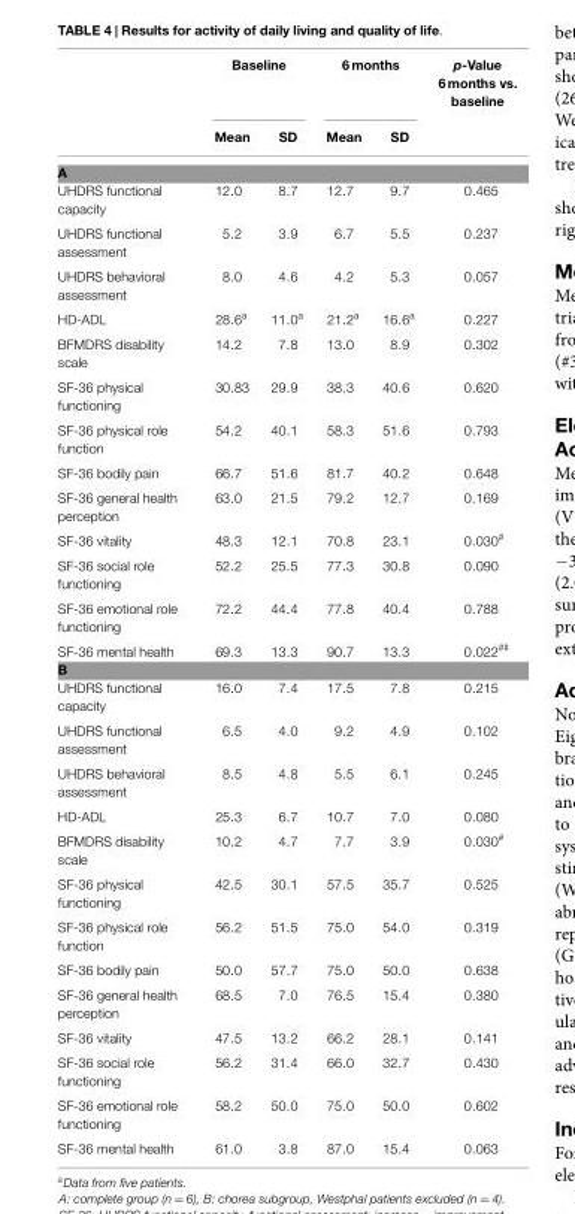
<table><thead><tr><td rowspan="2"></td><td colspan="2">Baseline</td><td colspan="2">6 months</td><td rowspan="2">p-Value 6 months vs. baseline</td></tr><tr><td>Mean</td><td>SD</td><td>Mean</td><td>SD</td></tr></thead><tbody><tr><td colspan="6">A</td></tr><tr><td>UHDRS functional capacity</td><td>12.0</td><td>8.7</td><td>12.7</td><td>9.7</td><td>0.465</td></tr><tr><td>UHDRS functional assessment</td><td>5.2</td><td>3.9</td><td>6.7</td><td>5.5</td><td>0.237</td></tr><tr><td>UHDRS behavioral assessment</td><td>8.0</td><td>4.6</td><td>4.2</td><td>5.3</td><td>0.057</td></tr><tr><td>HD-ADL</td><td>28.6<sup>a</sup></td><td>11.0<sup>a</sup></td><td>21.2<sup>a</sup></td><td>16.6<sup>a</sup></td><td>0.227</td></tr><tr><td>BFMDRS disability scale</td><td>14.2</td><td>7.8</td><td>13.0</td><td>8.9</td><td>0.302</td></tr><tr><td>SF-36 physical functioning</td><td>30.83</td><td>29.9</td><td>38.3</td><td>40.6</td><td>0.620</td></tr><tr><td>SF-36 physical role function</td><td>54.2</td><td>40.1</td><td>58.3</td><td>51.6</td><td>0.793</td></tr><tr><td>SF-36 bodily pain</td><td>66.7</td><td>51.6</td><td>81.7</td><td>40.2</td><td>0.648</td></tr><tr><td>SF-36 general health perception</td><td>63.0</td><td>21.5</td><td>79.2</td><td>12.7</td><td>0.169</td></tr><tr><td>SF-36 vitality</td><td>48.3</td><td>12.1</td><td>70.8</td><td>23.1</td><td>0.030<sup>#</sup></td></tr><tr><td>SF-36 social role functioning</td><td>52.2</td><td>25.5</td><td>77.3</td><td>30.8</td><td>0.090</td></tr><tr><td>SF-36 emotional role functioning</td><td>72.2</td><td>44.4</td><td>77.8</td><td>40.4</td><td>0.788</td></tr><tr><td>SF-36 mental health</td><td>69.3</td><td>13.3</td><td>90.7</td><td>13.3</td><td>0.022<sup>##</sup></td></tr><tr><td colspan="6">B</td></tr><tr><td>UHDRS functional capacity</td><td>16.0</td><td>7.4</td><td>17.5</td><td>7.8</td><td>0.215</td></tr><tr><td>UHDRS functional assessment</td><td>6.5</td><td>4.0</td><td>9.2</td><td>4.9</td><td>0.102</td></tr><tr><td>UHDRS behavioral assessment</td><td>8.5</td><td>4.8</td><td>5.5</td><td>6.1</td><td>0.245</td></tr><tr><td>HD-ADL</td><td>25.3</td><td>6.7</td><td>10.7</td><td>7.0</td><td>0.080</td></tr><tr><td>BFMDRS disability scale</td><td>10.2</td><td>4.7</td><td>7.7</td><td>3.9</td><td>0.030<sup>#</sup></td></tr><tr><td>SF-36 physical functioning</td><td>42.5</td><td>30.1</td><td>57.5</td><td>35.7</td><td>0.525</td></tr><tr><td>SF-36 physical role function</td><td>56.2</td><td>51.5</td><td>75.0</td><td>54.0</td><td>0.319</td></tr><tr><td>SF-36 bodily pain</td><td>50.0</td><td>57.7</td><td>75.0</td><td>50.0</td><td>0.638</td></tr><tr><td>SF-36 general health perception</td><td>68.5</td><td>7.0</td><td>76.5</td><td>15.4</td><td>0.380</td></tr><tr><td>SF-36 vitality</td><td>47.5</td><td>13.2</td><td>66.2</td><td>28.1</td><td>0.141</td></tr><tr><td>SF-36 social role functioning</td><td>56.2</td><td>31.4</td><td>66.0</td><td>32.7</td><td>0.430</td></tr><tr><td>SF-36 emotional role functioning</td><td>58.2</td><td>50.0</td><td>75.0</td><td>50.0</td><td>0.602</td></tr><tr><td>SF-36 mental health</td><td>61.0</td><td>3.8</td><td>87.0</td><td>15.4</td><td>0.063</td></tr></tbody></table>